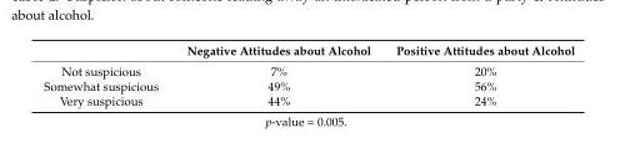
<table><thead><tr><td></td><td>Negative Attitudes about Alcohol</td><td>Positive Attitudes about Alcohol</td></tr></thead><tbody><tr><td>Not suspicious</td><td>7%</td><td>20%</td></tr><tr><td>Somewhat suspicious</td><td>49%</td><td>56%</td></tr><tr><td>Very suspicious</td><td>44%</td><td>24%</td></tr></tbody></table>